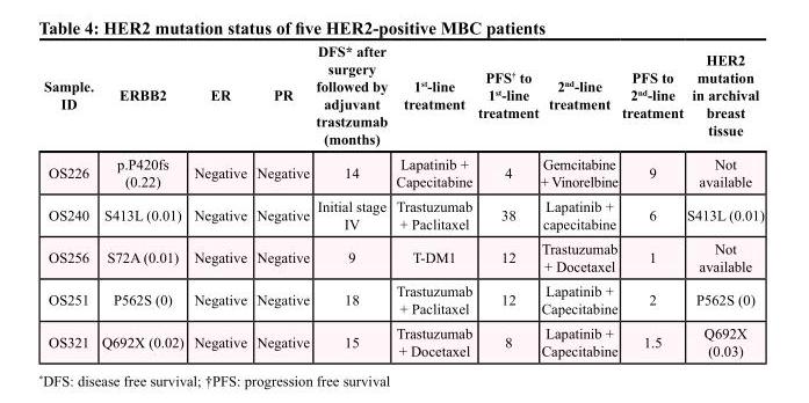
<table><thead><tr><td>Sample. ID</td><td>ERBB2</td><td>ER</td><td>PR</td><td>DFS* after surgery followed by adjuvant trastzumab (months)</td><td>1<sup>st</sup>-line treatment</td><td>PFS<sup>†</sup> to 1<sup>st</sup>-line treatment</td><td>2<sup>nd</sup>-line treatment</td><td>PFS to 2<sup>nd</sup>-line treatment</td><td>HER2 mutation in archival breast tissue</td></tr></thead><tbody><tr><td>OS226</td><td>p.P420fs (0.22)</td><td>Negative</td><td>Negative</td><td>14</td><td>Lapatinib + Capecitabine</td><td>4</td><td>Gemcitabine + Vinorelbine</td><td>9</td><td>Not available</td></tr><tr><td>OS240</td><td>S413L (0.01)</td><td>Negative</td><td>Negative</td><td>Initial stage IV</td><td>Trastuzumab + Paclitaxel</td><td>38</td><td>Lapatinib + capecitabine</td><td>6</td><td>S413L (0.01)</td></tr><tr><td>OS256</td><td>S72A (0.01)</td><td>Negative</td><td>Negative</td><td>9</td><td>T-DM1</td><td>12</td><td>Trastuzumab + Docetaxel</td><td>1</td><td>Not available</td></tr><tr><td>OS251</td><td>P562S (0)</td><td>Negative</td><td>Negative</td><td>18</td><td>Trastuzumab + Paclitaxel</td><td>12</td><td>Lapatinib + Capecitabine</td><td>2</td><td>P562S (0)</td></tr><tr><td>OS321</td><td>Q692X (0.02)</td><td>Negative</td><td>Negative</td><td>15</td><td>Trastuzumab + Docetaxel</td><td>8</td><td>Lapatinib + Capecitabine</td><td>1.5</td><td>Q692X (0.03)</td></tr></tbody></table>